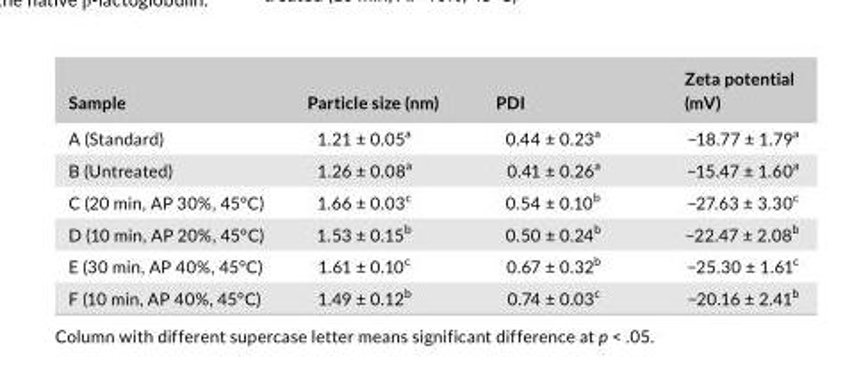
<table><thead><tr><td>Sample</td><td>Particlesize(nm)</td><td>PDI</td><td>Zetapotential (mV)</td></tr></thead><tbody><tr><td>A (Standard)</td><td>1.21 ± 0.05<sup>a</sup></td><td>0.44 ± 0.23<sup>a</sup></td><td>−18.77 ± 1.79<sup>a</sup></td></tr><tr><td>B (Untreated)</td><td>1.26 ± 0.08<sup>a</sup></td><td>0.41 ± 0.26<sup>a</sup></td><td>−15.47 ± 1.60<sup>a</sup></td></tr><tr><td>C (20 min, AP 30%, 45°C)</td><td>1.66 ± 0.03<sup>c</sup></td><td>0.54 ± 0.10<sup>b</sup></td><td>−27.63 ± 3.30<sup>c</sup></td></tr><tr><td>D (10 min, AP 20%, 45°C)</td><td>1.53 ± 0.15<sup>b</sup></td><td>0.50 ± 0.24<sup>b</sup></td><td>−22.47 ± 2.08<sup>b</sup></td></tr><tr><td>E (30 min, AP 40%, 45°C)</td><td>1.61 ± 0.10<sup>c</sup></td><td>0.67 ± 0.32<sup>b</sup></td><td>−25.30 ± 1.61<sup>c</sup></td></tr><tr><td>F (10 min, AP 40%, 45°C)</td><td>1.49 ± 0.12<sup>b</sup></td><td>0.74 ± 0.03<sup>c</sup></td><td>−20.16 ± 2.41<sup>b</sup></td></tr></tbody></table>